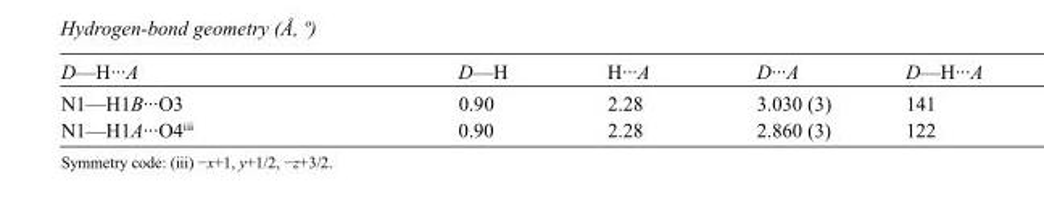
<table><tbody><tr><td>D—H···A</td><td>D—H</td><td>H···A</td><td>D···A</td><td>D—H···A</td></tr><tr><td>N1—H1B···O3</td><td>0.90</td><td>2.28</td><td>3.030 (3)</td><td>141</td></tr><tr><td>N1—H1A···O4<sup>iii</sup></td><td>0.90</td><td>2.28</td><td>2.860 (3)</td><td>122</td></tr></tbody></table>